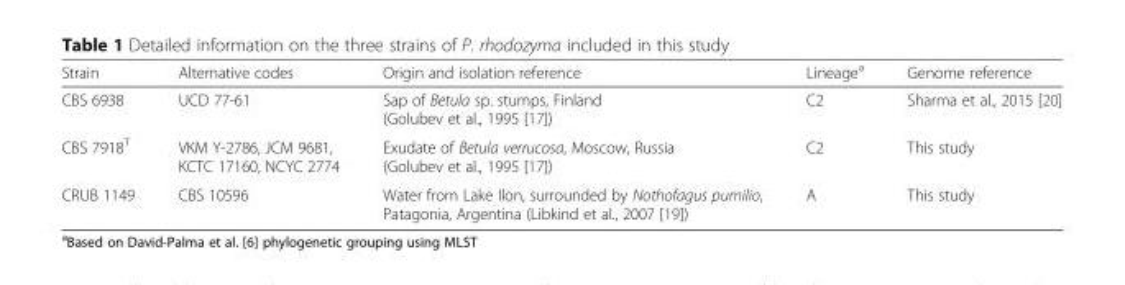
<table><thead><tr><td>Strain</td><td>Alternative codes</td><td>Origin and isolation reference</td><td>Lineage<sup>a</sup></td><td>Genome reference</td></tr></thead><tbody><tr><td>CBS 6938</td><td>UCD 77-61</td><td>Sap of Betula sp. stumps, Finland (Golubev et al., 1995 [17])</td><td>C2</td><td>Sharma et al., 2015 [20]</td></tr><tr><td>CBS 7918<sup>T</sup></td><td>VKM Y-2786, JCM 9681, KCTC 17160, NCYC 2774</td><td>Exudate of Betula verrucosa, Moscow, Russia (Golubev et al., 1995 [17])</td><td>C2</td><td>This study</td></tr><tr><td>CRUB 1149</td><td>CBS 10596</td><td>Water from Lake Ilon, surrounded by Nothofagus pumilio, Patagonia, Argentina (Libkind et al., 2007 [19])</td><td>A</td><td>This study</td></tr></tbody></table>